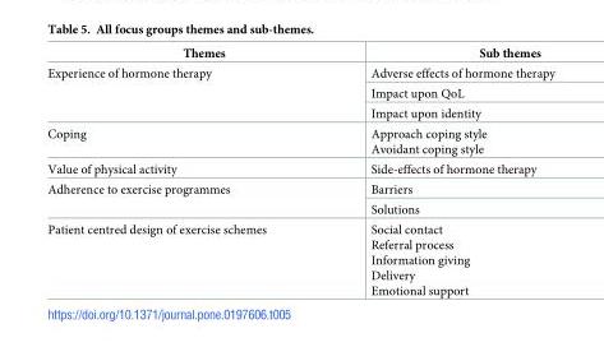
<table><thead><tr><td>Themes</td><td>Sub themes</td></tr></thead><tbody><tr><td rowspan="3">Experience of hormone therapy</td><td>Adverse effects of hormone therapy</td></tr><tr><td>Impact upon QoL</td></tr><tr><td>Impact upon identity</td></tr><tr><td>Coping</td><td>Approach coping style Avoidant coping style</td></tr><tr><td>Value of physical activity</td><td>Side-effects of hormone therapy</td></tr><tr><td rowspan="2">Adherence to exercise programmes</td><td>Barriers</td></tr><tr><td>Solutions</td></tr><tr><td>Patient centred design of exercise schemes</td><td>Social contact Referral process Information giving Delivery Emotional support</td></tr></tbody></table>